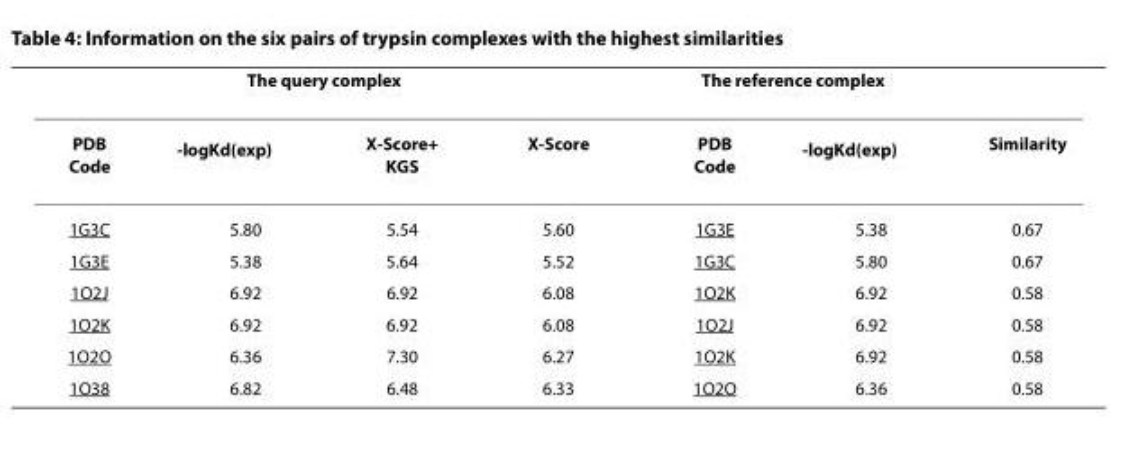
<table><thead><tr><td colspan="4">The query complex</td><td colspan="2">The reference complex</td><td rowspan="2">Similarity</td></tr><tr><td>PDB Code</td><td>-logK<sub>d</sub>(exp)</td><td>X-Score+ KGS</td><td>X-Score</td><td>PDB Code</td><td>-logK<sub>d</sub>(exp)</td></tr></thead><tbody><tr><td>1G3C</td><td>5.80</td><td>5.54</td><td>5.60</td><td>1G3E</td><td>5.38</td><td>0.67</td></tr><tr><td>1G3E</td><td>5.38</td><td>5.64</td><td>5.52</td><td>1G3C</td><td>5.80</td><td>0.67</td></tr><tr><td>1O2J</td><td>6.92</td><td>6.92</td><td>6.08</td><td>1O2K</td><td>6.92</td><td>0.58</td></tr><tr><td>1O2K</td><td>6.92</td><td>6.92</td><td>6.08</td><td>1O2J</td><td>6.92</td><td>0.58</td></tr><tr><td>1O2O</td><td>6.36</td><td>7.30</td><td>6.27</td><td>1O2K</td><td>6.92</td><td>0.58</td></tr><tr><td>1O38</td><td>6.82</td><td>6.48</td><td>6.33</td><td>1O2O</td><td>6.36</td><td>0.58</td></tr></tbody></table>